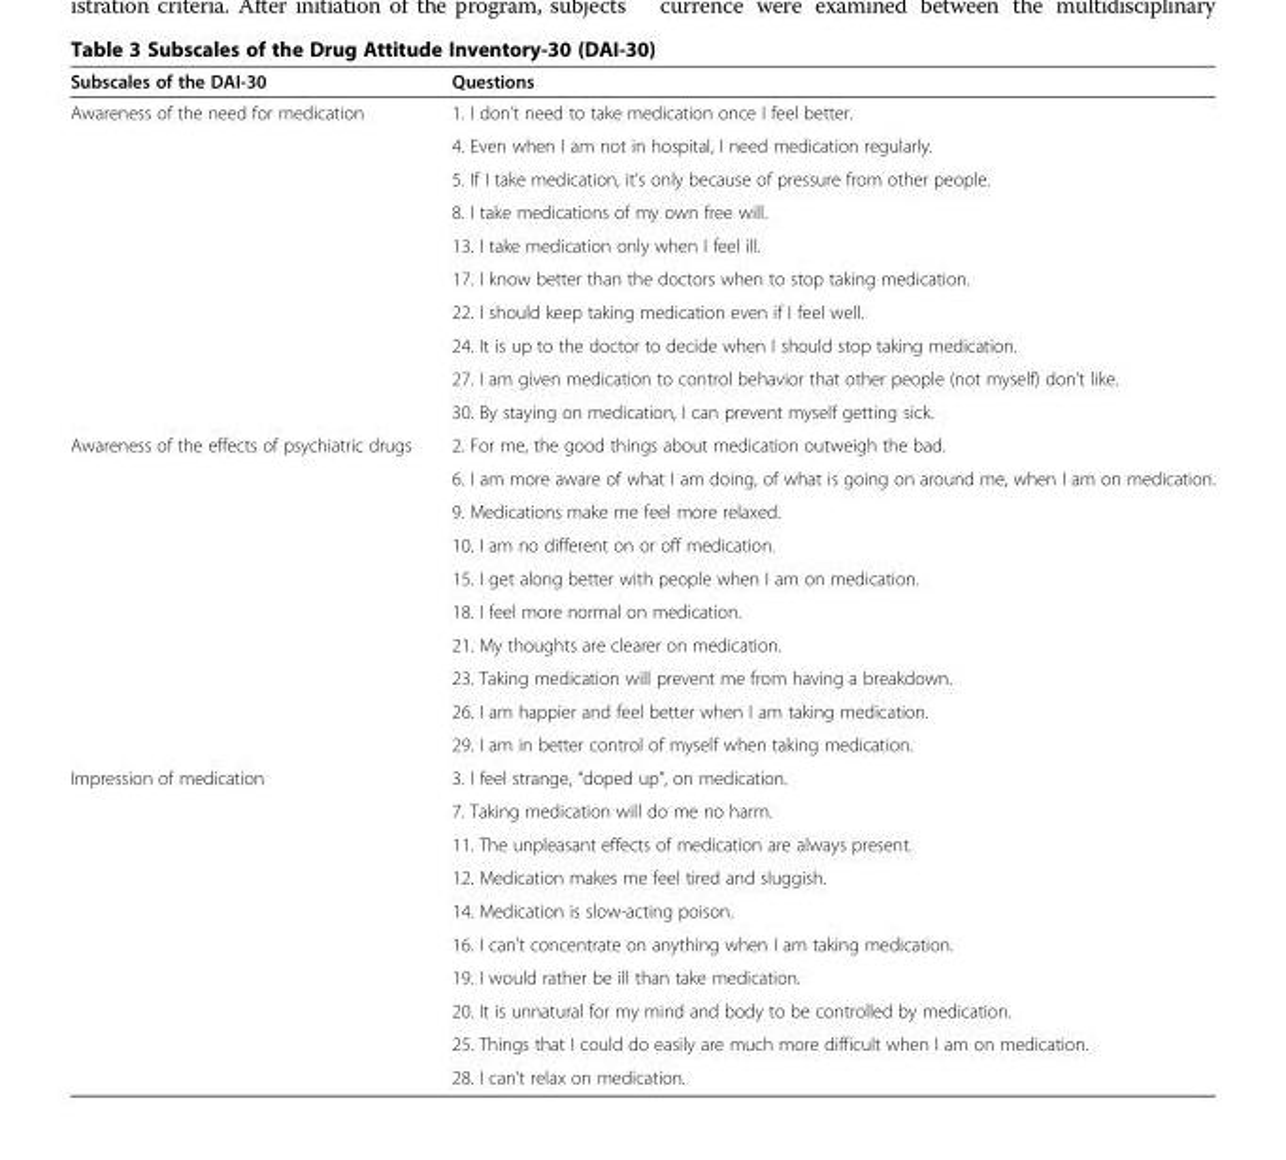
<table><thead><tr><td>Subscales of the DAI-30</td><td>Questions</td></tr></thead><tbody><tr><td rowspan="10">Awareness of the need for medication</td><td>1. I don’t need to take medication once I feel better.</td></tr><tr><td>4. Even when I am not in hospital, I need medication regularly.</td></tr><tr><td>5. If I take medication, it’s only because of pressure from other people.</td></tr><tr><td>8. I take medications of my own free will.</td></tr><tr><td>13. I take medication only when I feel ill.</td></tr><tr><td>17. I know better than the doctors when to stop taking medication.</td></tr><tr><td>22. I should keep taking medication even if I feel well.</td></tr><tr><td>24. It is up to the doctor to decide when I should stop taking medication.</td></tr><tr><td>27. I am given medication to control behavior that other people (not myself) don’t like.</td></tr><tr><td>30. By staying on medication, I can prevent myself getting sick.</td></tr><tr><td rowspan="10">Awareness of the effects of psychiatric drugs</td><td>2. For me, the good things about medication outweigh the bad.</td></tr><tr><td>6. I am more aware of what I am doing, of what is going on around me, when I am on medication.</td></tr><tr><td>9. Medications make me feel more relaxed.</td></tr><tr><td>10. I am no different on or off medication.</td></tr><tr><td>15. I get along better with people when I am on medication.</td></tr><tr><td>18. I feel more normal on medication.</td></tr><tr><td>21. My thoughts are clearer on medication.</td></tr><tr><td>23. Taking medication will prevent me from having a breakdown.</td></tr><tr><td>26. I am happier and feel better when I am taking medication.</td></tr><tr><td>29. I am in better control of myself when taking medication.</td></tr><tr><td rowspan="10">Impression of medication</td><td>3. I feel strange, “doped up”, on medication.</td></tr><tr><td>7. Taking medication will do me no harm.</td></tr><tr><td>11. The unpleasant effects of medication are always present.</td></tr><tr><td>12. Medication makes me feel tired and sluggish.</td></tr><tr><td>14. Medication is slow-acting poison.</td></tr><tr><td>16. I can’t concentrate on anything when I am taking medication.</td></tr><tr><td>19. I would rather be ill than take medication.</td></tr><tr><td>20. It is unnatural for my mind and body to be controlled by medication.</td></tr><tr><td>25. Things that I could do easily are much more difficult when I am on medication.</td></tr><tr><td>28. I can’t relax on medication.</td></tr></tbody></table>